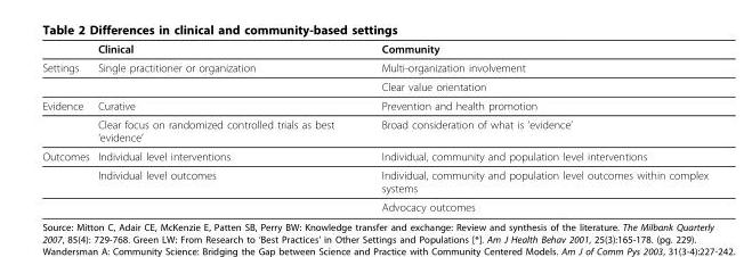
<table><thead><tr><td></td><td>Clinical</td><td>Community</td></tr></thead><tbody><tr><td rowspan="2">Settings</td><td>Single practitioner or organization</td><td>Multi-organization involvement</td></tr><tr><td></td><td>Clear value orientation</td></tr><tr><td rowspan="2">Evidence</td><td>Curative</td><td>Prevention and health promotion</td></tr><tr><td>Clear focus on randomized controlled trials as best ‘evidence’</td><td>Broad consideration of what is ‘evidence’</td></tr><tr><td rowspan="3">Outcomes</td><td>Individual level interventions</td><td>Individual, community and population level interventions</td></tr><tr><td>Individual level outcomes</td><td>Individual, community and population level outcomes within complex systems</td></tr><tr><td></td><td>Advocacy outcomes</td></tr></tbody></table>